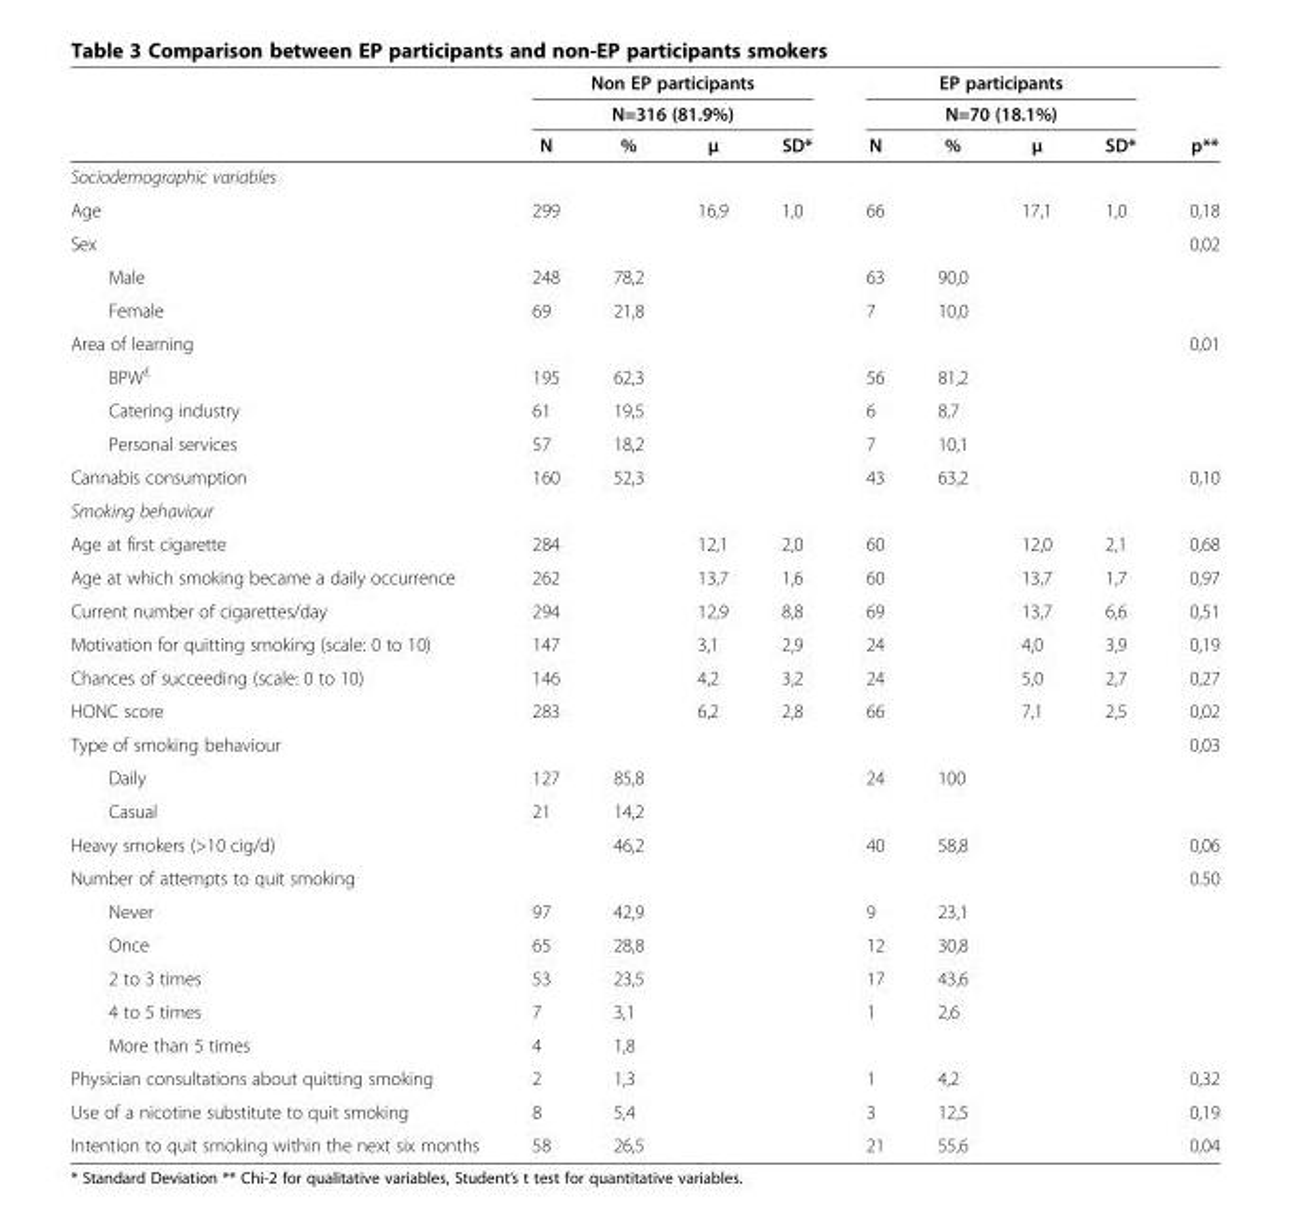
<table><thead><tr><td rowspan="3"></td><td rowspan="2" colspan="4">Non EP participants N=316 (81.9%)</td><td rowspan="2" colspan="4">EP participants N=70 (18.1%)</td><td rowspan="3">p**</td></tr><tr></tr><tr><td>N</td><td>%</td><td>μ</td><td>SD*</td><td>N</td><td>%</td><td>μ</td><td>SD*</td></tr></thead><tbody><tr><td colspan="10">Sociodemographic variables</td></tr><tr><td>Age</td><td>299</td><td></td><td>16,9</td><td>1,0</td><td>66</td><td></td><td>17,1</td><td>1,0</td><td>0,18</td></tr><tr><td colspan="9">Sex</td><td>0,02</td></tr><tr><td>Male</td><td>248</td><td>78,2</td><td></td><td></td><td>63</td><td>90,0</td><td></td><td></td><td></td></tr><tr><td>Female</td><td>69</td><td>21,8</td><td></td><td></td><td>7</td><td>10,0</td><td></td><td></td><td></td></tr><tr><td colspan="9">Area of learning</td><td>0,01</td></tr><tr><td>BPW<sup>£</sup></td><td>195</td><td>62,3</td><td></td><td></td><td>56</td><td>81,2</td><td></td><td></td><td></td></tr><tr><td>Catering industry</td><td>61</td><td>19,5</td><td></td><td></td><td>6</td><td>8,7</td><td></td><td></td><td></td></tr><tr><td>Personal services</td><td>57</td><td>18,2</td><td></td><td></td><td>7</td><td>10,1</td><td></td><td></td><td></td></tr><tr><td>Cannabis consumption</td><td>160</td><td>52,3</td><td></td><td></td><td>43</td><td>63,2</td><td></td><td></td><td>0,10</td></tr><tr><td colspan="10">Smoking behaviour</td></tr><tr><td>Age at first cigarette</td><td>284</td><td></td><td>12,1</td><td>2,0</td><td>60</td><td></td><td>12,0</td><td>2,1</td><td>0,68</td></tr><tr><td>Age at which smoking became a daily occurrence</td><td>262</td><td></td><td>13,7</td><td>1,6</td><td>60</td><td></td><td>13,7</td><td>1,7</td><td>0,97</td></tr><tr><td>Current number of cigarettes/day</td><td>294</td><td></td><td>12,9</td><td>8,8</td><td>69</td><td></td><td>13,7</td><td>6,6</td><td>0,51</td></tr><tr><td>Motivation for quitting smoking (scale: 0 to 10)</td><td>147</td><td></td><td>3,1</td><td>2,9</td><td>24</td><td></td><td>4,0</td><td>3,9</td><td>0,19</td></tr><tr><td>Chances of succeeding (scale: 0 to 10)</td><td>146</td><td></td><td>4,2</td><td>3,2</td><td>24</td><td></td><td>5,0</td><td>2,7</td><td>0,27</td></tr><tr><td>HONC score</td><td>283</td><td></td><td>6,2</td><td>2,8</td><td>66</td><td></td><td>7,1</td><td>2,5</td><td>0,02</td></tr><tr><td>Type of smoking behaviour</td><td></td><td></td><td></td><td></td><td></td><td></td><td></td><td></td><td>0,03</td></tr><tr><td>Daily</td><td>127</td><td>85,8</td><td></td><td></td><td>24</td><td>100</td><td></td><td></td><td></td></tr><tr><td>Casual</td><td>21</td><td>14,2</td><td></td><td></td><td></td><td></td><td></td><td></td><td></td></tr><tr><td>Heavy smokers (&gt;10 cig/d)</td><td></td><td>46,2</td><td></td><td></td><td>40</td><td>58,8</td><td></td><td></td><td>0,06</td></tr><tr><td colspan="9">Number of attempts to quit smoking</td><td>0.50</td></tr><tr><td>Never</td><td>97</td><td>42,9</td><td></td><td></td><td>9</td><td>23,1</td><td></td><td></td><td></td></tr><tr><td>Once</td><td>65</td><td>28,8</td><td></td><td></td><td>12</td><td>30,8</td><td></td><td></td><td></td></tr><tr><td>2 to 3 times</td><td>53</td><td>23,5</td><td></td><td></td><td>17</td><td>43,6</td><td></td><td></td><td></td></tr><tr><td>4 to 5 times</td><td>7</td><td>3,1</td><td></td><td></td><td>1</td><td>2,6</td><td></td><td></td><td></td></tr><tr><td>More than 5 times</td><td>4</td><td>1,8</td><td></td><td></td><td></td><td></td><td></td><td></td><td></td></tr><tr><td>Physician consultations about quitting smoking</td><td>2</td><td>1,3</td><td></td><td></td><td>1</td><td>4,2</td><td></td><td></td><td>0,32</td></tr><tr><td>Use of a nicotine substitute to quit smoking</td><td>8</td><td>5,4</td><td></td><td></td><td>3</td><td>12,5</td><td></td><td></td><td>0,19</td></tr><tr><td>Intention to quit smoking within the next six months</td><td>58</td><td>26,5</td><td></td><td></td><td>21</td><td>55,6</td><td></td><td></td><td>0,04</td></tr></tbody></table>